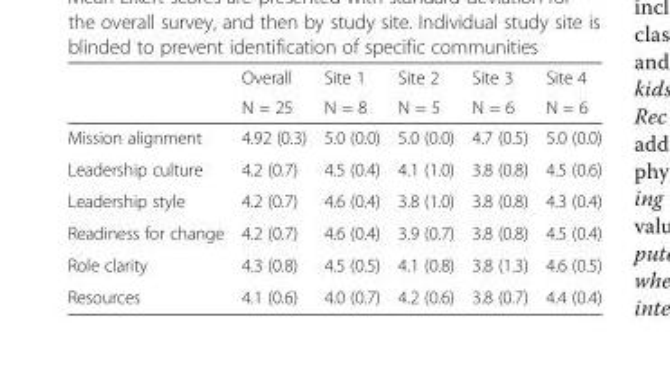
<table><thead><tr><td rowspan="2"></td><td rowspan="2">Overall N = 25</td><td rowspan="2">Site 1 N = 8</td><td rowspan="2">Site 2 N = 5</td><td rowspan="2">Site 3 N = 6</td><td rowspan="2">Site 4 N = 6</td></tr><tr></tr></thead><tbody><tr><td>Mission alignment</td><td>4.92 (0.3)</td><td>5.0 (0.0)</td><td>5.0 (0.0)</td><td>4.7 (0.5)</td><td>5.0 (0.0)</td></tr><tr><td>Leadership culture</td><td>4.2 (0.7)</td><td>4.5 (0.4)</td><td>4.1 (1.0)</td><td>3.8 (0.8)</td><td>4.5 (0.6)</td></tr><tr><td>Leadership style</td><td>4.2 (0.7)</td><td>4.6 (0.4)</td><td>3.8 (1.0)</td><td>3.8 (0.8)</td><td>4.3 (0.4)</td></tr><tr><td>Readiness for change</td><td>4.2 (0.7)</td><td>4.6 (0.4)</td><td>3.9 (0.7)</td><td>3.8 (0.8)</td><td>4.5 (0.4)</td></tr><tr><td>Role clarity</td><td>4.3 (0.8)</td><td>4.5 (0.5)</td><td>4.1 (0.8)</td><td>3.8 (1.3)</td><td>4.6 (0.5)</td></tr><tr><td>Resources</td><td>4.1 (0.6)</td><td>4.0 (0.7)</td><td>4.2 (0.6)</td><td>3.8 (0.7)</td><td>4.4 (0.4)</td></tr></tbody></table>